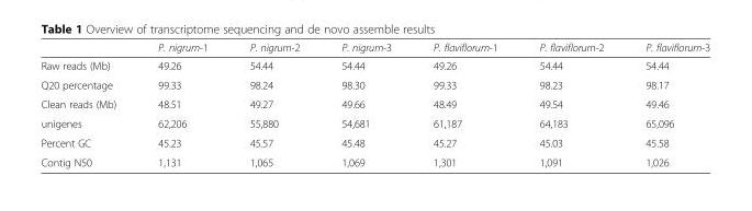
<table><thead><tr><td></td><td>P. nigrum-1</td><td>P. nigrum-2</td><td>P. nigrum-3</td><td>P. flaviflorum-1</td><td>P. flaviflorum-2</td><td>P. flaviflorum-3</td></tr></thead><tbody><tr><td>Raw reads (Mb)</td><td>49.26</td><td>54.44</td><td>54.44</td><td>49.26</td><td>54.44</td><td>54.44</td></tr><tr><td>Q20 percentage</td><td>99.33</td><td>98.24</td><td>98.30</td><td>99.33</td><td>98.23</td><td>98.17</td></tr><tr><td>Clean reads (Mb)</td><td>48.51</td><td>49.27</td><td>49.66</td><td>48.49</td><td>49.54</td><td>49.46</td></tr><tr><td>unigenes</td><td>62,206</td><td>55,880</td><td>54,681</td><td>61,187</td><td>64,183</td><td>65,096</td></tr><tr><td>Percent GC</td><td>45.23</td><td>45.57</td><td>45.48</td><td>45.27</td><td>45.03</td><td>45.58</td></tr><tr><td>Contig N50</td><td>1,131</td><td>1,065</td><td>1,069</td><td>1,301</td><td>1,091</td><td>1,026</td></tr></tbody></table>